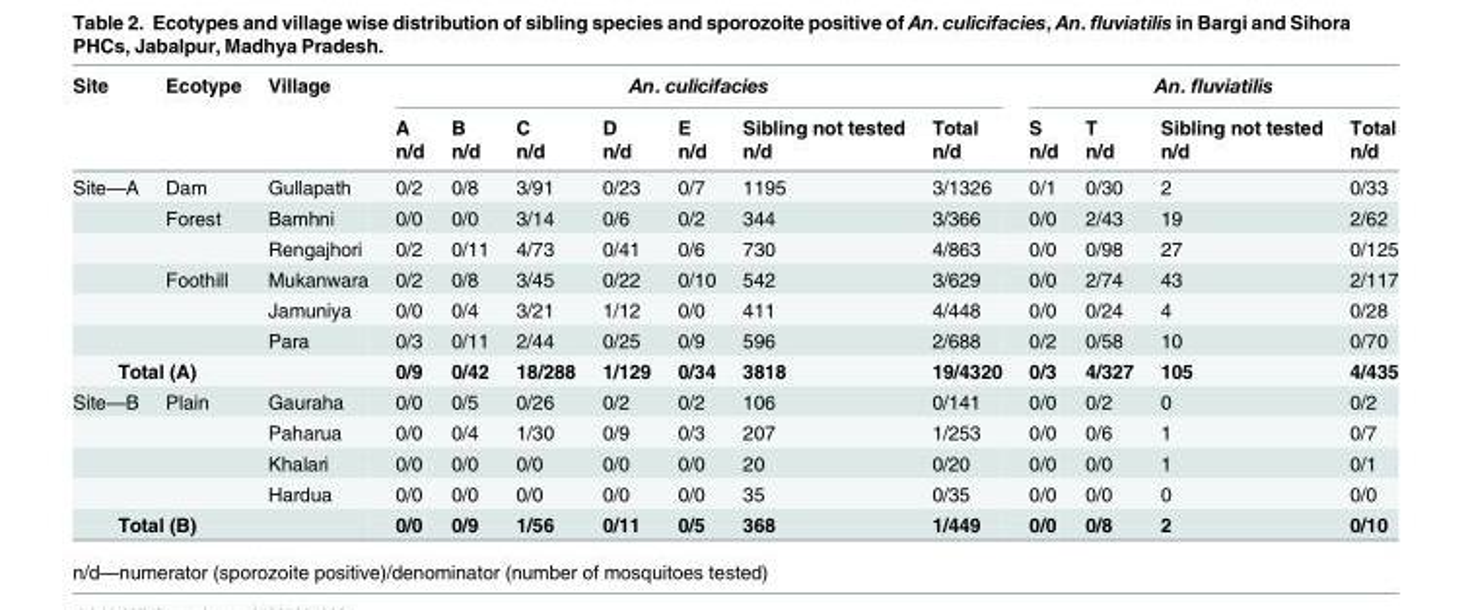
<table><thead><tr><td rowspan="3">Site</td><td rowspan="3">Ecotype</td><td rowspan="3">Village</td><td colspan="7">An. culicifacies</td><td colspan="4">An. fluviatilis</td></tr><tr><td rowspan="2">A n/d</td><td rowspan="2">B n/d</td><td rowspan="2">C n/d</td><td rowspan="2">D n/d</td><td rowspan="2">E n/d</td><td rowspan="2">Sibling not tested n/d</td><td rowspan="2">Total n/d</td><td rowspan="2">S n/d</td><td rowspan="2">T n/d</td><td rowspan="2">Sibling not tested n/d</td><td rowspan="2">Total n/d</td></tr><tr></tr></thead><tbody><tr><td rowspan="6">Site—A</td><td>Dam</td><td>Gullapath</td><td>0/2</td><td>0/8</td><td>3/91</td><td>0/23</td><td>0/7</td><td>1195</td><td>3/1326</td><td>0/1</td><td>0/30</td><td>2</td><td>0/33</td></tr><tr><td>Forest</td><td>Bamhni</td><td>0/0</td><td>0/0</td><td>3/14</td><td>0/6</td><td>0/2</td><td>344</td><td>3/366</td><td>0/0</td><td>2/43</td><td>19</td><td>2/62</td></tr><tr><td></td><td>Rengajhori</td><td>0/2</td><td>0/11</td><td>4/73</td><td>0/41</td><td>0/6</td><td>730</td><td>4/863</td><td>0/0</td><td>0/98</td><td>27</td><td>0/125</td></tr><tr><td>Foothill</td><td>Mukanwara</td><td>0/2</td><td>0/8</td><td>3/45</td><td>0/22</td><td>0/10</td><td>542</td><td>3/629</td><td>0/0</td><td>2/74</td><td>43</td><td>2/117</td></tr><tr><td></td><td>Jamuniya</td><td>0/0</td><td>0/4</td><td>3/21</td><td>1/12</td><td>0/0</td><td>411</td><td>4/448</td><td>0/0</td><td>0/24</td><td>4</td><td>0/28</td></tr><tr><td></td><td>Para</td><td>0/3</td><td>0/11</td><td>2/44</td><td>0/25</td><td>0/9</td><td>596</td><td>2/688</td><td>0/2</td><td>0/58</td><td>10</td><td>0/70</td></tr><tr><td colspan="2">Total (A)</td><td></td><td>0/9</td><td>0/42</td><td>18/288</td><td>1/129</td><td>0/34</td><td>3818</td><td>19/4320</td><td>0/3</td><td>4/327</td><td>105</td><td>4/435</td></tr><tr><td rowspan="4">Site—B</td><td>Plain</td><td>Gauraha</td><td>0/0</td><td>0/5</td><td>0/26</td><td>0/2</td><td>0/2</td><td>106</td><td>0/141</td><td>0/0</td><td>0/2</td><td>0</td><td>0/2</td></tr><tr><td></td><td>Paharua</td><td>0/0</td><td>0/4</td><td>1/30</td><td>0/9</td><td>0/3</td><td>207</td><td>1/253</td><td>0/0</td><td>0/6</td><td>1</td><td>0/7</td></tr><tr><td></td><td>Khalari</td><td>0/0</td><td>0/0</td><td>0/0</td><td>0/0</td><td>0/0</td><td>20</td><td>0/20</td><td>0/0</td><td>0/0</td><td>1</td><td>0/1</td></tr><tr><td></td><td>Hardua</td><td>0/0</td><td>0/0</td><td>0/0</td><td>0/0</td><td>0/0</td><td>35</td><td>0/35</td><td>0/0</td><td>0/0</td><td>0</td><td>0/0</td></tr><tr><td colspan="2">Total (B)</td><td></td><td>0/0</td><td>0/9</td><td>1/56</td><td>0/11</td><td>0/5</td><td>368</td><td>1/449</td><td>0/0</td><td>0/8</td><td>2</td><td>0/10</td></tr></tbody></table>